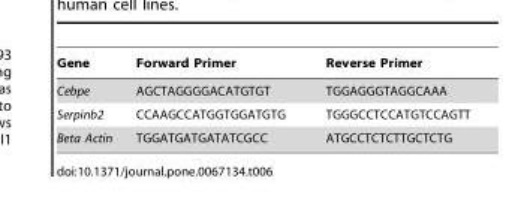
<table><thead><tr><td>Gene</td><td>Forward Primer</td><td>Reverse Primer</td></tr></thead><tbody><tr><td>Cebpe</td><td>AGCTAGGGGACATGTGT</td><td>TGGAGGGTAGGCAAA</td></tr><tr><td>Serpinb2</td><td>CCAAGCCATGGTGGATGTG</td><td>TGGGCCTCCATGTCCAGTT</td></tr><tr><td>Beta Actin</td><td>TGGATGATGATATCGCC</td><td>ATGCCTCTCTTGCTCTG</td></tr></tbody></table>